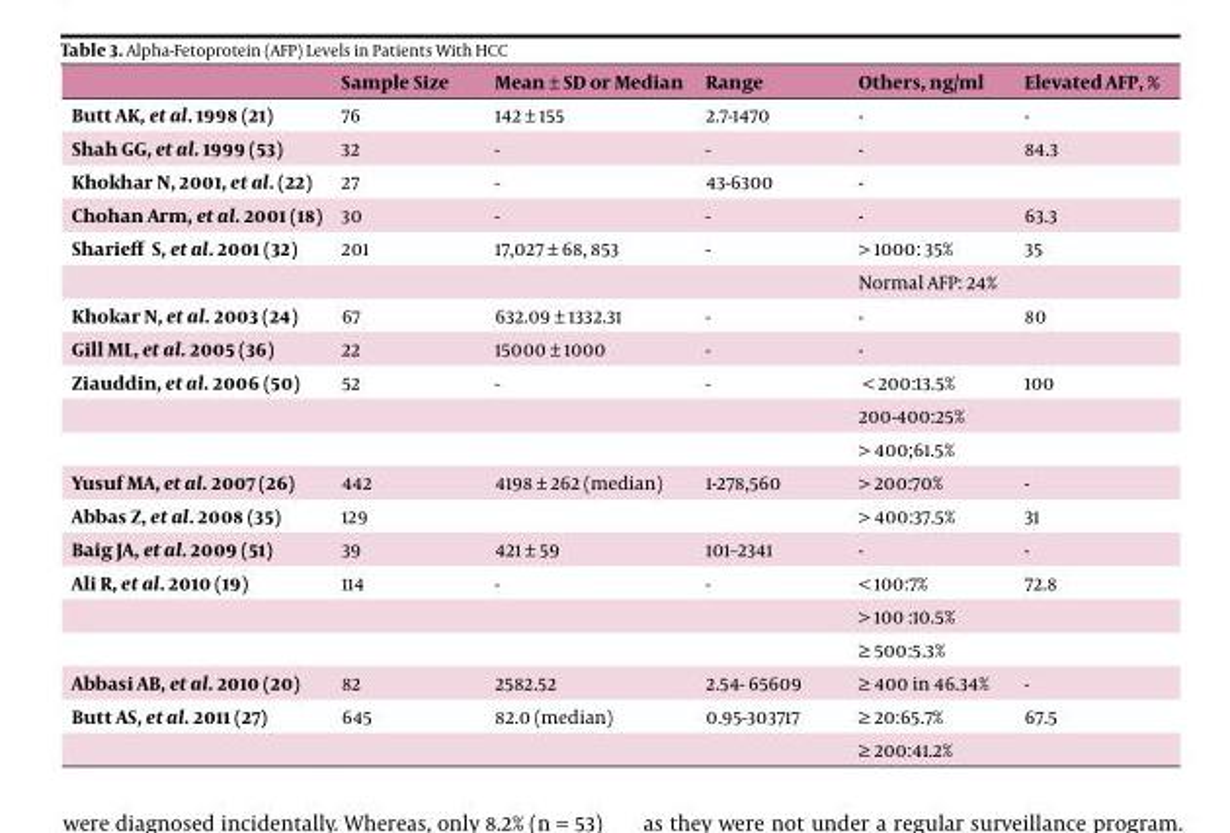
<table><thead><tr><td></td><td>Sample Size</td><td>Mean ± SD or Median</td><td>Range</td><td>Others, ng/ml</td><td>Elevated AFP, %</td></tr></thead><tbody><tr><td>Butt AK, et al. 1998 (21)</td><td>76</td><td>142 ± 155</td><td>2.7-1470</td><td>-</td><td>-</td></tr><tr><td>Shah GG, et al. 1999 (53)</td><td>32</td><td>-</td><td>-</td><td>-</td><td>84.3</td></tr><tr><td>Khokhar N, 2001, et al. (22)</td><td>27</td><td>-</td><td>43-6300</td><td>-</td><td></td></tr><tr><td>Chohan Arm, et al. 2001 (18)</td><td>30</td><td>-</td><td>-</td><td>-</td><td>63.3</td></tr><tr><td rowspan="2">Sharieff S, et al. 2001 (32)</td><td>201</td><td>17,027 ± 68, 853</td><td>-</td><td>&gt; 1000: 35%</td><td>35</td></tr><tr><td></td><td></td><td></td><td>Normal AFP: 24%</td><td></td></tr><tr><td>Khokar N, et al. 2003 (24)</td><td>67</td><td>632.09 ± 1332.31</td><td>-</td><td>-</td><td>80</td></tr><tr><td>Gill ML, et al. 2005 (36)</td><td>22</td><td>15000 ± 1000</td><td>-</td><td>-</td><td></td></tr><tr><td rowspan="3">Ziauddin, et al. 2006 (50)</td><td>52</td><td>-</td><td>-</td><td>&lt; 200:13.5%</td><td>100</td></tr><tr><td></td><td></td><td></td><td>200-400:25%</td><td></td></tr><tr><td></td><td></td><td></td><td>&gt; 400;61.5%</td><td></td></tr><tr><td>Yusuf MA, et al. 2007 (26)</td><td>442</td><td>4198 ± 262 (median)</td><td>1-278,560</td><td>&gt; 200:70%</td><td>-</td></tr><tr><td>Abbas Z, et al. 2008 (35)</td><td>129</td><td></td><td></td><td>&gt; 400:37.5%</td><td>31</td></tr><tr><td>Baig JA, et al. 2009 (51)</td><td>39</td><td>421 ± 59</td><td>101–2341</td><td>-</td><td>-</td></tr><tr><td rowspan="3">Ali R, et al. 2010 (19)</td><td>114</td><td>-</td><td>-</td><td>&lt; 100:7%</td><td>72.8</td></tr><tr><td></td><td></td><td></td><td>&gt; 100 :10.5%</td><td></td></tr><tr><td></td><td></td><td></td><td>≥ 500:5.3%</td><td></td></tr><tr><td>Abbasi AB, et al. 2010 (20)</td><td>82</td><td>2582.52</td><td>2.54- 65609</td><td>≥ 400 in 46.34%</td><td>-</td></tr><tr><td rowspan="2">Butt AS, et al. 2011 (27)</td><td>645</td><td>82.0 (median)</td><td>0.95-303717</td><td>≥ 20:65.7%</td><td>67.5</td></tr><tr><td></td><td></td><td></td><td>≥ 200:41.2%</td><td></td></tr></tbody></table>